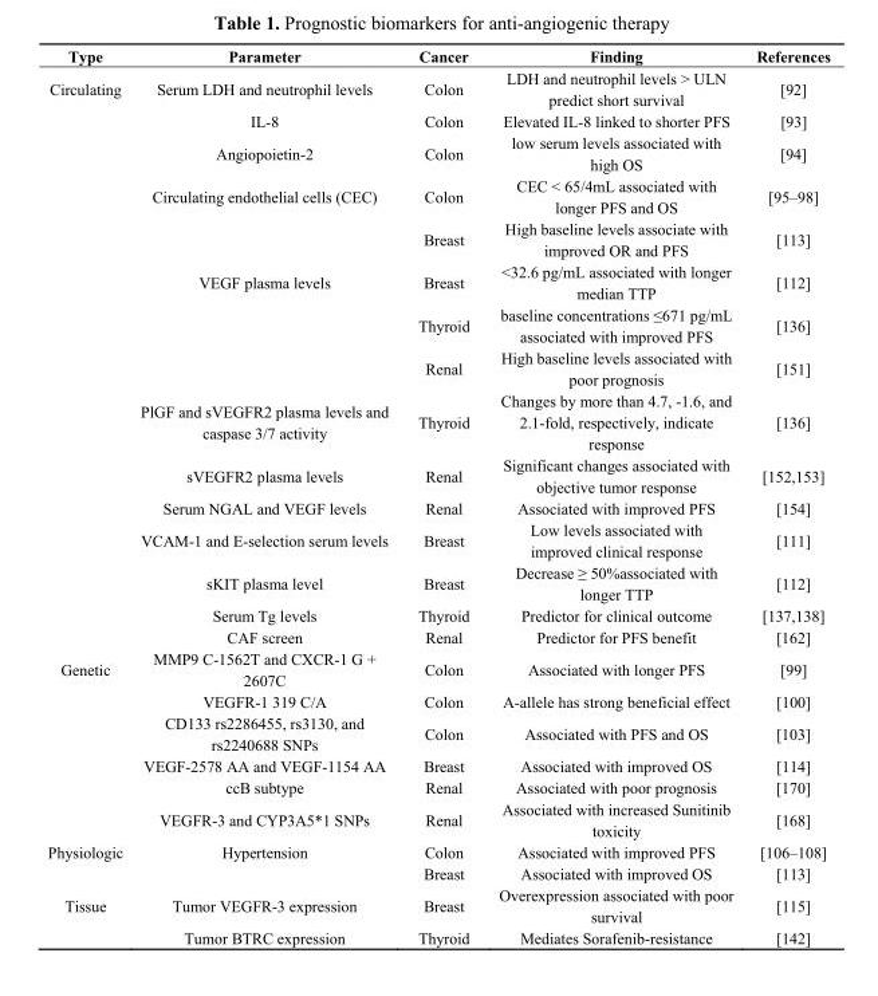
<table><thead><tr><td>Type</td><td>Parameter</td><td>Cancer</td><td>Finding</td><td>References</td></tr></thead><tbody><tr><td rowspan="15">Circulating</td><td>Serum LDH and neutrophil levels</td><td>Colon</td><td>LDH and neutrophil levels &gt; ULN predict short survival</td><td>[92]</td></tr><tr><td>IL-8</td><td>Colon</td><td>Elevated IL-8 linked to shorter PFS</td><td>[93]</td></tr><tr><td>Angiopoietin-2</td><td>Colon</td><td>low serum levels associated with high OS</td><td>[94]</td></tr><tr><td>Circulating endothelial cells (CEC)</td><td>Colon</td><td>CEC &lt; 65/4mL associated with longer PFS and OS</td><td>[95–98]</td></tr><tr><td></td><td>Breast</td><td>High baseline levels associate with improved OR and PFS</td><td>[113]</td></tr><tr><td>VEGF plasma levels</td><td>Breast</td><td>&lt;32.6 pg/mL associated with longer median TTP</td><td>[112]</td></tr><tr><td></td><td>Thyroid</td><td>baseline concentrations ≤671 pg/mL associated with improved PFS</td><td>[136]</td></tr><tr><td></td><td>Renal</td><td>High baseline levels associated with poor prognosis</td><td>[151]</td></tr><tr><td>PlGF and sVEGFR2 plasma levels and caspase 3/7 activity</td><td>Thyroid</td><td>Changes by more than 4.7, -1.6, and 2.1-fold, respectively, indicate response</td><td>[136]</td></tr><tr><td>sVEGFR2 plasma levels</td><td>Renal</td><td>Significant changes associated with objective tumor response</td><td>[152, 153]</td></tr><tr><td>Serum NGAL and VEGF levels</td><td>Renal</td><td>Associated with improved PFS</td><td>[154]</td></tr><tr><td>VCAM-1 and E-selection serum levels</td><td>Breast</td><td>Low levels associated with improved clinical response</td><td>[111]</td></tr><tr><td>sKIT plasma level</td><td>Breast</td><td>Decrease ≥ 50%associated with longer TTP</td><td>[112]</td></tr><tr><td>Serum Tg levels</td><td>Thyroid</td><td>Predictor for clinical outcome</td><td>[137, 138]</td></tr><tr><td>CAF screen</td><td>Renal</td><td>Predictor for PFS benefit</td><td>[162]</td></tr><tr><td rowspan="6">Genetic</td><td>MMP9 C-1562T and CXCR-1 G + 2607C</td><td>Colon</td><td>Associated with longer PFS</td><td>[99]</td></tr><tr><td>VEGFR-1 319 C/A</td><td>Colon</td><td>A-allele has strong beneficial effect</td><td>[100]</td></tr><tr><td>CD133 rs2286455, rs3130, and rs2240688 SNPs</td><td>Colon</td><td>Associated with PFS and OS</td><td>[103]</td></tr><tr><td>VEGF-2578 AA and VEGF-1154 AA</td><td>Breast</td><td>Associated with improved OS</td><td>[114]</td></tr><tr><td>ccB subtype</td><td>Renal</td><td>Associated with poor prognosis</td><td>[170]</td></tr><tr><td>VEGFR-3 and CYP3A5*1 SNPs</td><td>Renal</td><td>Associated with increased Sunitinib toxicity</td><td>[168]</td></tr><tr><td rowspan="2">Physiologic</td><td>Hypertension</td><td>Colon</td><td>Associated with improved PFS</td><td>[106–108]</td></tr><tr><td></td><td>Breast</td><td>Associated with improved OS</td><td>[113]</td></tr><tr><td rowspan="2">Tissue</td><td>Tumor VEGFR-3 expression</td><td>Breast</td><td>Overexpression associated with poor survival</td><td>[115]</td></tr><tr><td>Tumor BTRC expression</td><td>Thyroid</td><td>Mediates Sorafenib-resistance</td><td>[142]</td></tr></tbody></table>